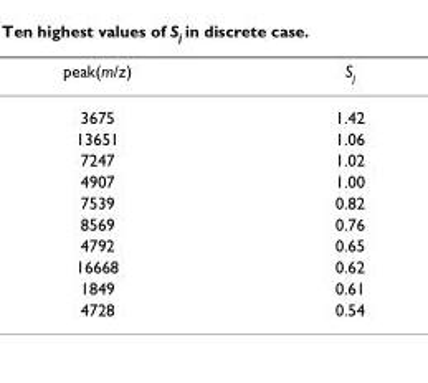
<table><thead><tr><td>peak(m/z)</td><td>Sj</td></tr></thead><tbody><tr><td>3675</td><td>1.42</td></tr><tr><td>13651</td><td>1.06</td></tr><tr><td>7247</td><td>1.02</td></tr><tr><td>4907</td><td>1.00</td></tr><tr><td>7539</td><td>0.82</td></tr><tr><td>8569</td><td>0.76</td></tr><tr><td>4792</td><td>0.65</td></tr><tr><td>16668</td><td>0.62</td></tr><tr><td>1849</td><td>0.61</td></tr><tr><td>4728</td><td>0.54</td></tr></tbody></table>